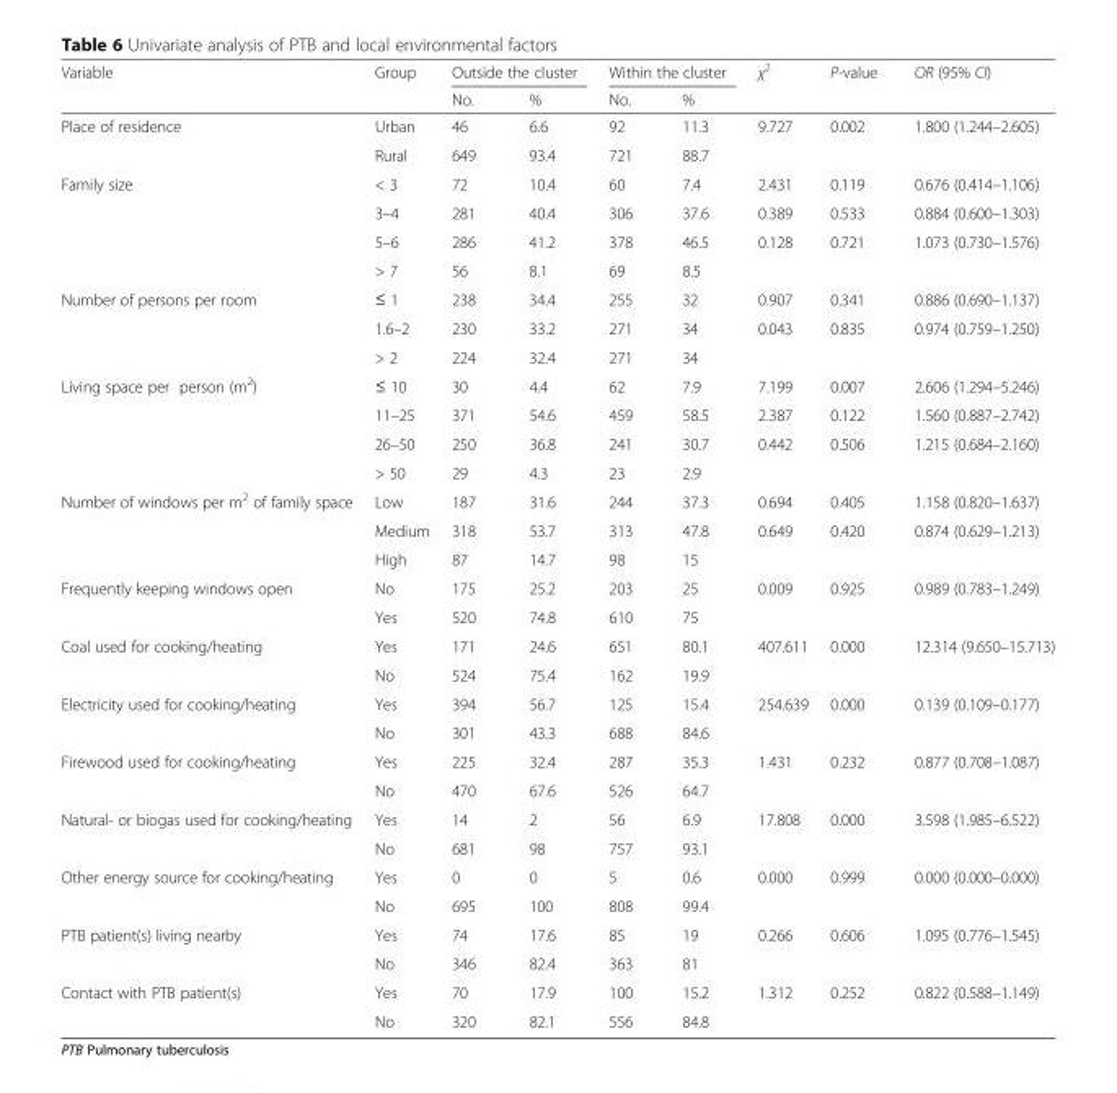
<table><thead><tr><td rowspan="2">Variable</td><td rowspan="2">Group</td><td colspan="2">Outside the cluster</td><td colspan="2">Within the cluster</td><td rowspan="2">χ<sup>2</sup></td><td rowspan="2">P-value</td><td rowspan="2">OR (95% CI)</td></tr><tr><td>No.</td><td>%</td><td>No.</td><td>%</td></tr></thead><tbody><tr><td rowspan="2">Place of residence</td><td>Urban</td><td>46</td><td>6.6</td><td>92</td><td>11.3</td><td>9.727</td><td>0.002</td><td>1.800 (1.244–2.605)</td></tr><tr><td>Rural</td><td>649</td><td>93.4</td><td>721</td><td>88.7</td><td></td><td></td><td></td></tr><tr><td rowspan="4">Family size</td><td>&lt; 3</td><td>72</td><td>10.4</td><td>60</td><td>7.4</td><td>2.431</td><td>0.119</td><td>0.676 (0.414–1.106)</td></tr><tr><td>3–4</td><td>281</td><td>40.4</td><td>306</td><td>37.6</td><td>0.389</td><td>0.533</td><td>0.884 (0.600–1.303)</td></tr><tr><td>5–6</td><td>286</td><td>41.2</td><td>378</td><td>46.5</td><td>0.128</td><td>0.721</td><td>1.073 (0.730–1.576)</td></tr><tr><td>&gt; 7</td><td>56</td><td>8.1</td><td>69</td><td>8.5</td><td></td><td></td><td></td></tr><tr><td rowspan="3">Number of persons per room</td><td>≤ 1</td><td>238</td><td>34.4</td><td>255</td><td>32</td><td>0.907</td><td>0.341</td><td>0.886 (0.690–1.137)</td></tr><tr><td>1.6–2</td><td>230</td><td>33.2</td><td>271</td><td>34</td><td>0.043</td><td>0.835</td><td>0.974 (0.759–1.250)</td></tr><tr><td>&gt; 2</td><td>224</td><td>32.4</td><td>271</td><td>34</td><td></td><td></td><td></td></tr><tr><td rowspan="4">Living space per person (m<sup>2</sup>)</td><td>≤ 10</td><td>30</td><td>4.4</td><td>62</td><td>7.9</td><td>7.199</td><td>0.007</td><td>2.606 (1.294–5.246)</td></tr><tr><td>11–25</td><td>371</td><td>54.6</td><td>459</td><td>58.5</td><td>2.387</td><td>0.122</td><td>1.560 (0.887–2.742)</td></tr><tr><td>26–50</td><td>250</td><td>36.8</td><td>241</td><td>30.7</td><td>0.442</td><td>0.506</td><td>1.215 (0.684–2.160)</td></tr><tr><td>&gt; 50</td><td>29</td><td>4.3</td><td>23</td><td>2.9</td><td></td><td></td><td></td></tr><tr><td rowspan="3">Number of windows per m<sup>2</sup> of family space</td><td>Low</td><td>187</td><td>31.6</td><td>244</td><td>37.3</td><td>0.694</td><td>0.405</td><td>1.158 (0.820–1.637)</td></tr><tr><td>Medium</td><td>318</td><td>53.7</td><td>313</td><td>47.8</td><td>0.649</td><td>0.420</td><td>0.874 (0.629–1.213)</td></tr><tr><td>High</td><td>87</td><td>14.7</td><td>98</td><td>15</td><td></td><td></td><td></td></tr><tr><td rowspan="2">Frequently keeping windows open</td><td>No</td><td>175</td><td>25.2</td><td>203</td><td>25</td><td>0.009</td><td>0.925</td><td>0.989 (0.783–1.249)</td></tr><tr><td>Yes</td><td>520</td><td>74.8</td><td>610</td><td>75</td><td></td><td></td><td></td></tr><tr><td rowspan="2">Coal used for cooking/heating</td><td>Yes</td><td>171</td><td>24.6</td><td>651</td><td>80.1</td><td>407.611</td><td>0.000</td><td>12.314 (9.650–15.713)</td></tr><tr><td>No</td><td>524</td><td>75.4</td><td>162</td><td>19.9</td><td></td><td></td><td></td></tr><tr><td rowspan="2">Electricity used for cooking/heating</td><td>Yes</td><td>394</td><td>56.7</td><td>125</td><td>15.4</td><td>254.639</td><td>0.000</td><td>0.139 (0.109–0.177)</td></tr><tr><td>No</td><td>301</td><td>43.3</td><td>688</td><td>84.6</td><td></td><td></td><td></td></tr><tr><td rowspan="2">Firewood used for cooking/heating</td><td>Yes</td><td>225</td><td>32.4</td><td>287</td><td>35.3</td><td>1.431</td><td>0.232</td><td>0.877 (0.708–1.087)</td></tr><tr><td>No</td><td>470</td><td>67.6</td><td>526</td><td>64.7</td><td></td><td></td><td></td></tr><tr><td rowspan="2">Natural- or biogas used for cooking/heating</td><td>Yes</td><td>14</td><td>2</td><td>56</td><td>6.9</td><td>17.808</td><td>0.000</td><td>3.598 (1.985–6.522)</td></tr><tr><td>No</td><td>681</td><td>98</td><td>757</td><td>93.1</td><td></td><td></td><td></td></tr><tr><td rowspan="2">Other energy source for cooking/heating</td><td>Yes</td><td>0</td><td>0</td><td>5</td><td>0.6</td><td>0.000</td><td>0.999</td><td>0.000 (0.000–0.000)</td></tr><tr><td>No</td><td>695</td><td>100</td><td>808</td><td>99.4</td><td></td><td></td><td></td></tr><tr><td rowspan="2">PTB patient(s) living nearby</td><td>Yes</td><td>74</td><td>17.6</td><td>85</td><td>19</td><td>0.266</td><td>0.606</td><td>1.095 (0.776–1.545)</td></tr><tr><td>No</td><td>346</td><td>82.4</td><td>363</td><td>81</td><td></td><td></td><td></td></tr><tr><td rowspan="2">Contact with PTB patient(s)</td><td>Yes</td><td>70</td><td>17.9</td><td>100</td><td>15.2</td><td>1.312</td><td>0.252</td><td>0.822 (0.588–1.149)</td></tr><tr><td>No</td><td>320</td><td>82.1</td><td>556</td><td>84.8</td><td></td><td></td><td></td></tr></tbody></table>